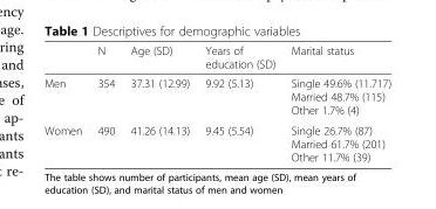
<table><thead><tr><td></td><td>N</td><td>Age (SD)</td><td>Years of education (SD)</td><td>Marital status</td></tr></thead><tbody><tr><td>Men</td><td>354</td><td>37.31 (12.99)</td><td>9.92 (5.13)</td><td>Single 49.6% (11.717) Married 48.7% (115) Other 1.7% (4)</td></tr><tr><td>Women</td><td>490</td><td>41.26 (14.13)</td><td>9.45 (5.54)</td><td>Single 26.7% (87) Married 61.7% (201) Other 11.7% (39)</td></tr></tbody></table>